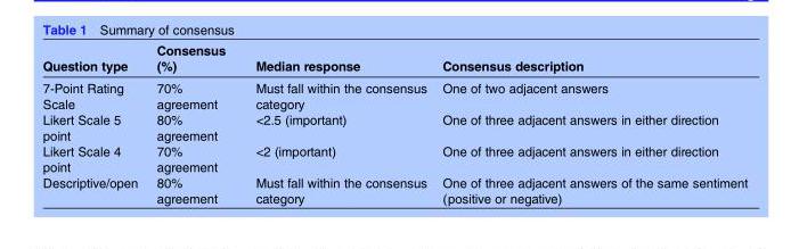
<table><thead><tr><td>Question type</td><td>Consensus (%)</td><td>Median response</td><td>Consensus description</td></tr></thead><tbody><tr><td>7-Point Rating Scale</td><td>70% agreement</td><td>Must fall within the consensus category</td><td>One of two adjacent answers</td></tr><tr><td>Likert Scale 5 point</td><td>80% agreement</td><td>&lt;2.5 (important)</td><td>One of three adjacent answers in either direction</td></tr><tr><td>Likert Scale 4 point</td><td>70% agreement</td><td>&lt;2 (important)</td><td>One of three adjacent answers in either direction</td></tr><tr><td>Descriptive/open</td><td>80% agreement</td><td>Must fall within the consensus category</td><td>One of three adjacent answers of the same sentiment (positive or negative)</td></tr></tbody></table>